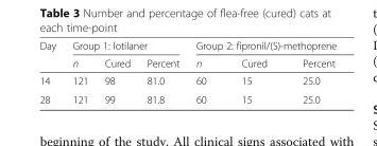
<table><thead><tr><td rowspan="2">Day</td><td colspan="3">Group 1: lotilaner</td><td colspan="3">Group 2: fipronil/(S)-methoprene</td></tr><tr><td>n</td><td>Cured</td><td>Percent</td><td>n</td><td>Cured</td><td>Percent</td></tr></thead><tbody><tr><td>14</td><td>121</td><td>98</td><td>81.0</td><td>60</td><td>15</td><td>25.0</td></tr><tr><td>28</td><td>121</td><td>99</td><td>81.8</td><td>60</td><td>15</td><td>25.0</td></tr></tbody></table>